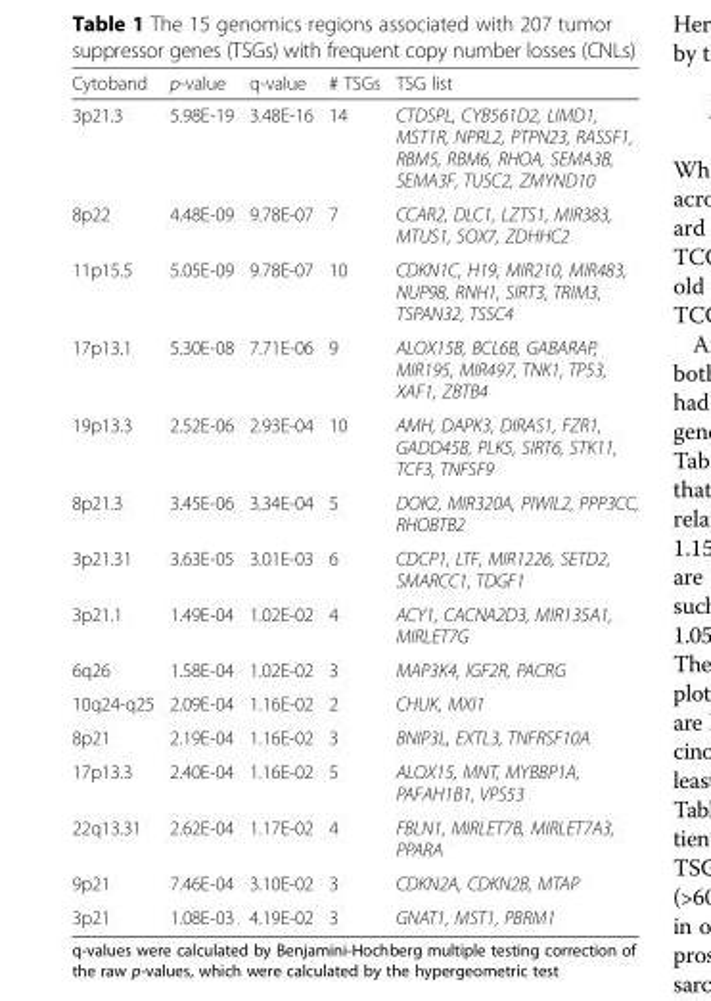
<table><thead><tr><td>Cytoband</td><td>p-value</td><td>q-value</td><td># TSGs</td><td>TSG list</td></tr></thead><tbody><tr><td>3p21.3</td><td>5.98E-19</td><td>3.48E-16</td><td>14</td><td>CTDSPL, CYB561D2, LIMD1, MST1R, NPRL2, PTPN23, RASSF1, RBM5, RBM6, RHOA, SEMA3B, SEMA3F, TUSC2, ZMYND10</td></tr><tr><td>8p22</td><td>4.48E-09</td><td>9.78E-07</td><td>7</td><td>CCAR2, DLC1, LZTS1, MIR383, MTUS1, SOX7, ZDHHC2</td></tr><tr><td>11p15.5</td><td>5.05E-09</td><td>9.78E-07</td><td>10</td><td>CDKN1C, H19, MIR210, MIR483, NUP98, RNH1, SIRT3, TRIM3, TSPAN32, TSSC4</td></tr><tr><td>17p13.1</td><td>5.30E-08</td><td>7.71E-06</td><td>9</td><td>ALOX15B, BCL6B, GABARAP, MIR195, MIR497, TNK1, TP53, XAF1, ZBTB4</td></tr><tr><td>19p13.3</td><td>2.52E-06</td><td>2.93E-04</td><td>10</td><td>AMH, DAPK3, DIRAS1, FZR1, GADD45B, PLK5, SIRT6, STK11, TCF3, TNFSF9</td></tr><tr><td>8p21.3</td><td>3.45E-06</td><td>3.34E-04</td><td>5</td><td>DOK2, MIR320A, PIWIL2, PPP3CC, RHOBTB2</td></tr><tr><td>3p21.31</td><td>3.63E-05</td><td>3.01E-03</td><td>6</td><td>CDCP1, LTF, MIR1226, SETD2, SMARCC1, TDGF1</td></tr><tr><td>3p21.1</td><td>1.49E-04</td><td>1.02E-02</td><td>4</td><td>ACY1, CACNA2D3, MIR135A1, MIRLET7G</td></tr><tr><td>6q26</td><td>1.58E-04</td><td>1.02E-02</td><td>3</td><td>MAP3K4, IGF2R, PACRG</td></tr><tr><td>10q24-q25</td><td>2.09E-04</td><td>1.16E-02</td><td>2</td><td>CHUK, MXI1</td></tr><tr><td>8p21</td><td>2.19E-04</td><td>1.16E-02</td><td>3</td><td>BNIP3L, EXTL3, TNFRSF10A</td></tr><tr><td>17p13.3</td><td>2.40E-04</td><td>1.16E-02</td><td>5</td><td>ALOX15, MNT, MYBBP1A, PAFAH1B1, VPS53</td></tr><tr><td>22q13.31</td><td>2.62E-04</td><td>1.17E-02</td><td>4</td><td>FBLN1, MIRLET7B, MIRLET7A3, PPARA</td></tr><tr><td>9p21</td><td>7.46E-04</td><td>3.10E-02</td><td>3</td><td>CDKN2A, CDKN2B, MTAP</td></tr><tr><td>3p21</td><td>1.08E-03</td><td>4.19E-02</td><td>3</td><td>GNAT1, MST1, PBRM1</td></tr></tbody></table>